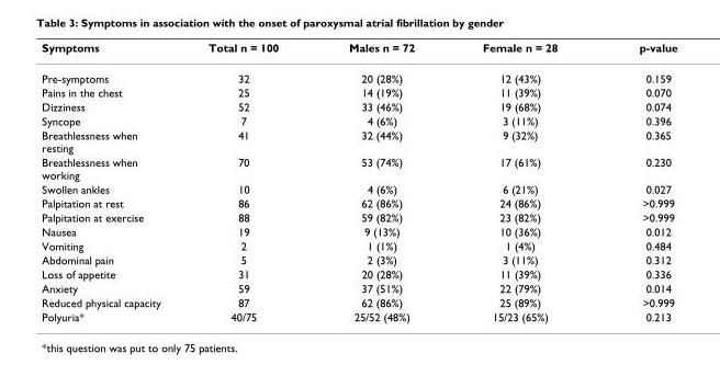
<table><thead><tr><td>Symptoms</td><td>Total n = 100</td><td>Males n = 72</td><td>Female n = 28</td><td>p-value</td></tr></thead><tbody><tr><td>Pre-symptoms</td><td>32</td><td>20 (28%)</td><td>12 (43%)</td><td>0.159</td></tr><tr><td>Pains in the chest</td><td>25</td><td>14 (19%)</td><td>11 (39%)</td><td>0.070</td></tr><tr><td>Dizziness</td><td>52</td><td>33 (46%)</td><td>19 (68%)</td><td>0.074</td></tr><tr><td>Syncope</td><td>7</td><td>4 (6%)</td><td>3 (11%)</td><td>0.396</td></tr><tr><td>Breathlessness when resting</td><td>41</td><td>32 (44%)</td><td>9 (32%)</td><td>0.365</td></tr><tr><td>Breathlessness when working</td><td>70</td><td>53 (74%)</td><td>17 (61%)</td><td>0.230</td></tr><tr><td>Swollen ankles</td><td>10</td><td>4 (6%)</td><td>6 (21%)</td><td>0.027</td></tr><tr><td>Palpitation at rest</td><td>86</td><td>62 (86%)</td><td>24 (86%)</td><td>&gt;0.999</td></tr><tr><td>Palpitation at exercise</td><td>88</td><td>59 (82%)</td><td>23 (82%)</td><td>&gt;0.999</td></tr><tr><td>Nausea</td><td>19</td><td>9 (13%)</td><td>10 (36%)</td><td>0.012</td></tr><tr><td>Vomiting</td><td>2</td><td>1 (1%)</td><td>1 (4%)</td><td>0.484</td></tr><tr><td>Abdominal pain</td><td>5</td><td>2 (3%)</td><td>3 (11%)</td><td>0.312</td></tr><tr><td>Loss of appetite</td><td>31</td><td>20 (28%)</td><td>11 (39%)</td><td>0.336</td></tr><tr><td>Anxiety</td><td>59</td><td>37 (51%)</td><td>22 (79%)</td><td>0.014</td></tr><tr><td>Reduced physical capacity</td><td>87</td><td>62 (86%)</td><td>25 (89%)</td><td>&gt;0.999</td></tr><tr><td>Polyuria*</td><td>40/75</td><td>25/52 (48%)</td><td>15/23 (65%)</td><td>0.213</td></tr></tbody></table>